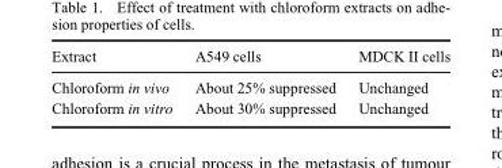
<table><thead><tr><td>Extract</td><td>A549 cells</td><td>MDCK II cells</td></tr></thead><tbody><tr><td>Chloroform in vivo</td><td>About 25% suppressed</td><td>Unchanged</td></tr><tr><td>Chloroform in vitro</td><td>About 30% suppressed</td><td>Unchanged</td></tr></tbody></table>